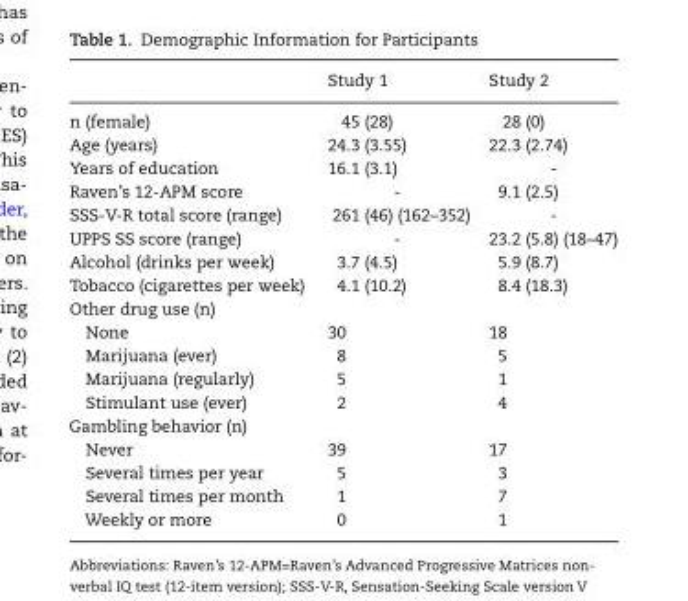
<table><thead><tr><td></td><td>Study 1</td><td>Study 2</td></tr></thead><tbody><tr><td>n (female)</td><td>45 (28)</td><td>28 (0)</td></tr><tr><td>Age (years)</td><td>24.3 (3.55)</td><td>22.3 (2.74)</td></tr><tr><td>Years of education</td><td>16.1 (3.1)</td><td>-</td></tr><tr><td>Raven’s 12-APM score</td><td>-</td><td>9.1 (2.5)</td></tr><tr><td>SSS-V-R total score (range)</td><td>261 (46) (162–352)</td><td>-</td></tr><tr><td>UPPS SS score (range)</td><td>-</td><td>23.2 (5.8) (18–47)</td></tr><tr><td>Alcohol (drinks per week)</td><td>3.7 (4.5)</td><td>5.9 (8.7)</td></tr><tr><td>Tobacco (cigarettes per week)</td><td>4.1 (10.2)</td><td>8.4 (18.3)</td></tr><tr><td colspan="3">Other drug use (n)</td></tr><tr><td>None</td><td>30</td><td>18</td></tr><tr><td>Marijuana (ever)</td><td>8</td><td>5</td></tr><tr><td>Marijuana (regularly)</td><td>5</td><td>1</td></tr><tr><td>Stimulant use (ever)</td><td>2</td><td>4</td></tr><tr><td colspan="3">Gambling behavior (n)</td></tr><tr><td>Never</td><td>39</td><td>17</td></tr><tr><td>Several times per year</td><td>5</td><td>3</td></tr><tr><td>Several times per month</td><td>1</td><td>7</td></tr><tr><td>Weekly or more</td><td>0</td><td>1</td></tr></tbody></table>